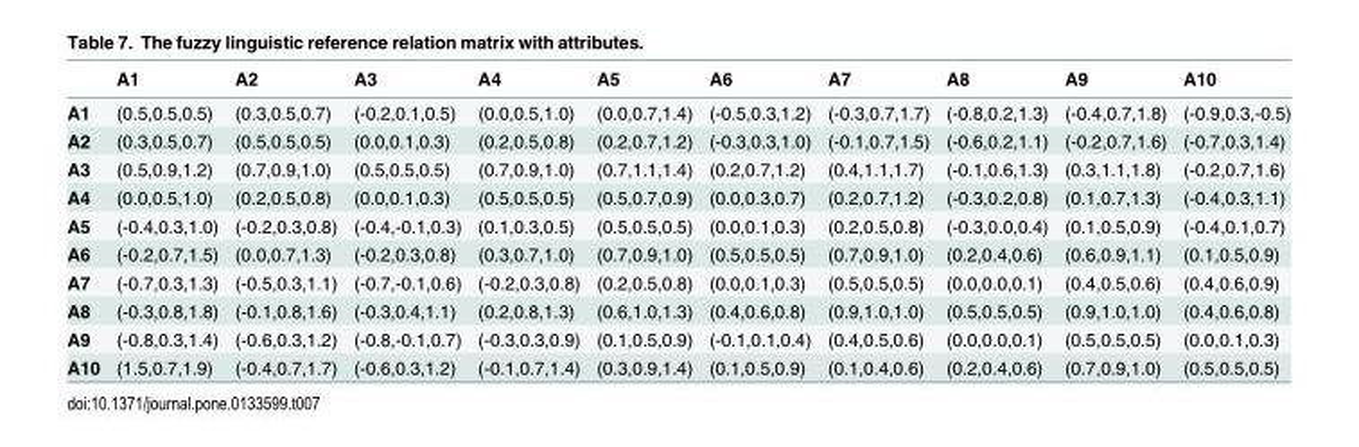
<table><thead><tr><td></td><td>A1</td><td>A2</td><td>A3</td><td>A4</td><td>A5</td><td>A6</td><td>A7</td><td>A8</td><td>A9</td><td>A10</td></tr></thead><tbody><tr><td>A1</td><td>(0.5,0.5,0.5)</td><td>(0.3,0.5,0.7)</td><td>(-0.2,0.1,0.5)</td><td>(0.0,0.5,1.0)</td><td>(0.0,0.7,1.4)</td><td>(-0.5,0.3,1.2)</td><td>(-0.3,0.7,1.7)</td><td>(-0.8,0.2,1.3)</td><td>(-0.4,0.7,1.8)</td><td>(-0.9,0.3,-0.5)</td></tr><tr><td>A2</td><td>(0.3,0.5,0.7)</td><td>(0.5,0.5,0.5)</td><td>(0.0,0.1,0.3)</td><td>(0.2,0.5,0.8)</td><td>(0.2,0.7,1.2)</td><td>(-0.3,0.3,1.0)</td><td>(-0.1,0.7,1.5)</td><td>(-0.6,0.2,1.1)</td><td>(-0.2,0.7,1.6)</td><td>(-0.7,0.3,1.4)</td></tr><tr><td>A3</td><td>(0.5,0.9,1.2)</td><td>(0.7,0.9,1.0)</td><td>(0.5,0.5,0.5)</td><td>(0.7,0.9,1.0)</td><td>(0.7,1.1,1.4)</td><td>(0.2,0.7,1.2)</td><td>(0.4,1.1,1.7)</td><td>(-0.1,0.6,1.3)</td><td>(0.3,1.1,1.8)</td><td>(-0.2,0.7,1.6)</td></tr><tr><td>A4</td><td>(0.0,0.5,1.0)</td><td>(0.2,0.5,0.8)</td><td>(0.0,0.1,0.3)</td><td>(0.5,0.5,0.5)</td><td>(0.5,0.7,0.9)</td><td>(0.0,0.3,0.7)</td><td>(0.2,0.7,1.2)</td><td>(-0.3,0.2,0.8)</td><td>(0.1,0.7,1.3)</td><td>(-0.4,0.3,1.1)</td></tr><tr><td>A5</td><td>(-0.4,0.3,1.0)</td><td>(-0.2,0.3,0.8)</td><td>(-0.4,-0.1,0.3)</td><td>(0.1,0.3,0.5)</td><td>(0.5,0.5,0.5)</td><td>(0.0,0.1,0.3)</td><td>(0.2,0.5,0.8)</td><td>(-0.3,0.0,0.4)</td><td>(0.1,0.5,0.9)</td><td>(-0.4,0.1,0.7)</td></tr><tr><td>A6</td><td>(-0.2,0.7,1.5)</td><td>(0.0,0.7,1.3)</td><td>(-0.2,0.3,0.8)</td><td>(0.3,0.7,1.0)</td><td>(0.7,0.9,1.0)</td><td>(0.5,0.5,0.5)</td><td>(0.7,0.9,1.0)</td><td>(0.2,0.4,0.6)</td><td>(0.6,0.9,1.1)</td><td>(0.1,0.5,0.9)</td></tr><tr><td>A7</td><td>(-0.7,0.3,1.3)</td><td>(-0.5,0.3,1.1)</td><td>(-0.7,-0.1,0.6)</td><td>(-0.2,0.3,0.8)</td><td>(0.2,0.5,0.8)</td><td>(0.0,0.1,0.3)</td><td>(0.5,0.5,0.5)</td><td>(0.0,0.0,0.1)</td><td>(0.4,0.5,0.6)</td><td>(0.4,0.6,0.9)</td></tr><tr><td>A8</td><td>(-0.3,0.8,1.8)</td><td>(-0.1,0.8,1.6)</td><td>(-0.3,0.4,1.1)</td><td>(0.2,0.8,1.3)</td><td>(0.6,1.0,1.3)</td><td>(0.4,0.6,0.8)</td><td>(0.9,1.0,1.0)</td><td>(0.5,0.5,0.5)</td><td>(0.9,1.0,1.0)</td><td>(0.4,0.6,0.8)</td></tr><tr><td>A9</td><td>(-0.8,0.3,1.4)</td><td>(-0.6,0.3,1.2)</td><td>(-0.8,-0.1,0.7)</td><td>(-0.3,0.3,0.9)</td><td>(0.1,0.5,0.9)</td><td>(-0.1,0.1,0.4)</td><td>(0.4,0.5,0.6)</td><td>(0.0,0.0,0.1)</td><td>(0.5,0.5,0.5)</td><td>(0.0,0.1,0.3)</td></tr><tr><td>A10</td><td>(1.5,0.7,1.9)</td><td>(-0.4,0.7,1.7)</td><td>(-0.6,0.3,1.2)</td><td>(-0.1,0.7,1.4)</td><td>(0.3,0.9,1.4)</td><td>(0.1,0.5,0.9)</td><td>(0.1,0.4,0.6)</td><td>(0.2,0.4,0.6)</td><td>(0.7,0.9,1.0)</td><td>(0.5,0.5,0.5)</td></tr></tbody></table>